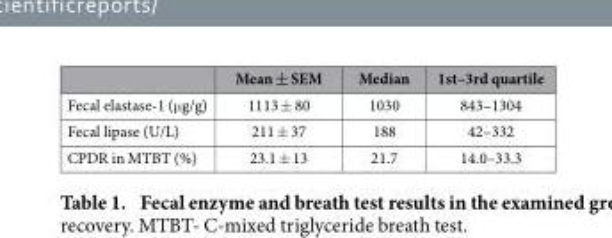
<table><thead><tr><td></td><td>Mean ± SEM</td><td>Median</td><td>1st–3rd quartile</td></tr></thead><tbody><tr><td>Fecal elastase-1 (μ g/g)</td><td>1113 ± 80</td><td>1030</td><td>843–1304</td></tr><tr><td>Fecal lipase (U/L)</td><td>211 ± 37</td><td>188</td><td>42–332</td></tr><tr><td>CPDR in MTBT (%)</td><td>23.1 ± 13</td><td>21.7</td><td>14.0–33.3</td></tr></tbody></table>